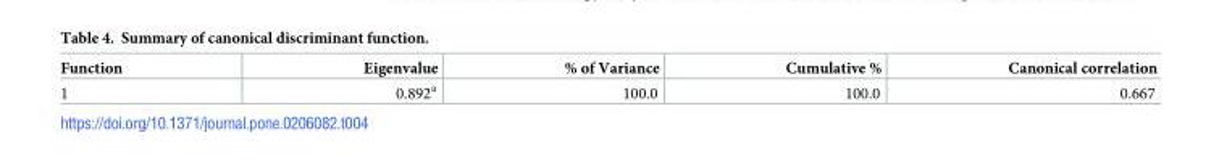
<table><thead><tr><td>Function</td><td>Eigenvalue</td><td>% of Variance</td><td>Cumulative %</td><td>Canonical correlation</td></tr></thead><tbody><tr><td>1</td><td>0.892<sup>a</sup></td><td>100.0</td><td>100.0</td><td>0.667</td></tr></tbody></table>